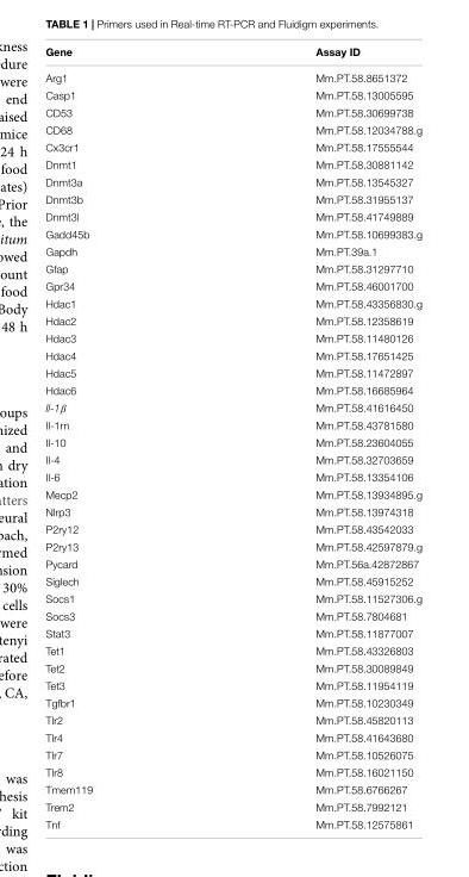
<table><thead><tr><td>Gene</td><td>Assay ID</td></tr></thead><tbody><tr><td>Arg1</td><td>Mm.PT.58.8651372</td></tr><tr><td>Casp1</td><td>Mm.PT.58.13005595</td></tr><tr><td>CD53</td><td>Mm.PT.58.30699738</td></tr><tr><td>CD68</td><td>Mm.PT.58.12034788.g</td></tr><tr><td>Cx3cr1</td><td>Mm.PT.58.17555544</td></tr><tr><td>Dnmt1</td><td>Mm.PT.58.30881142</td></tr><tr><td>Dnmt3a</td><td>Mm.PT.58.13545327</td></tr><tr><td>Dnmt3b</td><td>Mm.PT.58.31955137</td></tr><tr><td>Dnmt3l</td><td>Mm.PT.58.41749889</td></tr><tr><td>Gadd45b</td><td>Mm.PT.58.10699383.g</td></tr><tr><td>Gapdh</td><td>Mm.PT.39a.1</td></tr><tr><td>Gfap</td><td>Mm.PT.58.31297710</td></tr><tr><td>Gpr34</td><td>Mm.PT.58.46001700</td></tr><tr><td>Hdac1</td><td>Mm.PT.58.43356830.g</td></tr><tr><td>Hdac2</td><td>Mm.PT.58.12358619</td></tr><tr><td>Hdac3</td><td>Mm.PT.58.11480126</td></tr><tr><td>Hdac4</td><td>Mm.PT.58.17651425</td></tr><tr><td>Hdac5</td><td>Mm.PT.58.11472897</td></tr><tr><td>Hdac6</td><td>Mm.PT.58.16685964</td></tr><tr><td>Il-1β</td><td>Mm.PT.58.41616450</td></tr><tr><td>Il-1rn</td><td>Mm.PT.58.43781580</td></tr><tr><td>Il-10</td><td>Mm.PT.58.23604055</td></tr><tr><td>Il-4</td><td>Mm.PT.58.32703659</td></tr><tr><td>Il-6</td><td>Mm.PT.58.13354106</td></tr><tr><td>Mecp2</td><td>Mm.PT.58.13934895.g</td></tr><tr><td>Nlrp3</td><td>Mm.PT.58.13974318</td></tr><tr><td>P2ry12</td><td>Mm.PT.58.43542033</td></tr><tr><td>P2ry13</td><td>Mm.PT.58.42597879.g</td></tr><tr><td>Pycard</td><td>Mm.PT.56a.42872867</td></tr><tr><td>Siglech</td><td>Mm.PT.58.45915252</td></tr><tr><td>Socs1</td><td>Mm.PT.58.11527306.g</td></tr><tr><td>Socs3</td><td>Mm.PT.58.7804681</td></tr><tr><td>Stat3</td><td>Mm.PT.58.11877007</td></tr><tr><td>Tet1</td><td>Mm.PT.58.43326803</td></tr><tr><td>Tet2</td><td>Mm.PT.58.30089849</td></tr><tr><td>Tet3</td><td>Mm.PT.58.11954119</td></tr><tr><td>Tgfbr1</td><td>Mm.PT.58.10230349</td></tr><tr><td>Tlr2</td><td>Mm.PT.58.45820113</td></tr><tr><td>Tlr4</td><td>Mm.PT.58.41643680</td></tr><tr><td>Tlr7</td><td>Mm.PT.58.10526075</td></tr><tr><td>Tlr8</td><td>Mm.PT.58.16021150</td></tr><tr><td>Tmem119</td><td>Mm.PT.58.6766267</td></tr><tr><td>Trem2</td><td>Mm.PT.58.7992121</td></tr><tr><td>Tnf</td><td>Mm.PT.58.12575861</td></tr></tbody></table>